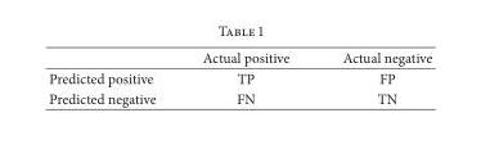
<table><thead><tr><td></td><td>Actual positive</td><td>Actual negative</td></tr></thead><tbody><tr><td>Predicted positive</td><td>TP</td><td>FP</td></tr><tr><td>Predicted negative</td><td>FN</td><td>TN</td></tr></tbody></table>